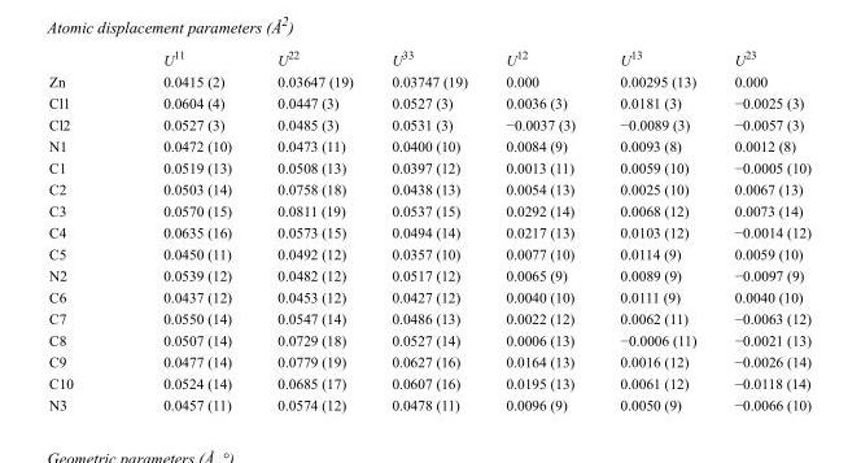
<table><thead><tr><td></td><td>U<sup>11</sup></td><td>U<sup>22</sup></td><td>U<sup>33</sup></td><td>U<sup>12</sup></td><td>U<sup>13</sup></td><td>U<sup>23</sup></td></tr></thead><tbody><tr><td>Zn</td><td>0.0415 (2)</td><td>0.03647 (19)</td><td>0.03747 (19)</td><td>0.000</td><td>0.00295 (13)</td><td>0.000</td></tr><tr><td>Cl1</td><td>0.0604 (4)</td><td>0.0447 (3)</td><td>0.0527 (3)</td><td>0.0036 (3)</td><td>0.0181 (3)</td><td>−0.0025 (3)</td></tr><tr><td>Cl2</td><td>0.0527 (3)</td><td>0.0485 (3)</td><td>0.0531 (3)</td><td>−0.0037 (3)</td><td>−0.0089 (3)</td><td>−0.0057 (3)</td></tr><tr><td>N1</td><td>0.0472 (10)</td><td>0.0473 (11)</td><td>0.0400 (10)</td><td>0.0084 (9)</td><td>0.0093 (8)</td><td>0.0012 (8)</td></tr><tr><td>C1</td><td>0.0519 (13)</td><td>0.0508 (13)</td><td>0.0397 (12)</td><td>0.0013 (11)</td><td>0.0059 (10)</td><td>−0.0005 (10)</td></tr><tr><td>C2</td><td>0.0503 (14)</td><td>0.0758 (18)</td><td>0.0438 (13)</td><td>0.0054 (13)</td><td>0.0025 (10)</td><td>0.0067 (13)</td></tr><tr><td>C3</td><td>0.0570 (15)</td><td>0.0811 (19)</td><td>0.0537 (15)</td><td>0.0292 (14)</td><td>0.0068 (12)</td><td>0.0073 (14)</td></tr><tr><td>C4</td><td>0.0635 (16)</td><td>0.0573 (15)</td><td>0.0494 (14)</td><td>0.0217 (13)</td><td>0.0103 (12)</td><td>−0.0014 (12)</td></tr><tr><td>C5</td><td>0.0450 (11)</td><td>0.0492 (12)</td><td>0.0357 (10)</td><td>0.0077 (10)</td><td>0.0114 (9)</td><td>0.0059 (10)</td></tr><tr><td>N2</td><td>0.0539 (12)</td><td>0.0482 (12)</td><td>0.0517 (12)</td><td>0.0065 (9)</td><td>0.0089 (9)</td><td>−0.0097 (9)</td></tr><tr><td>C6</td><td>0.0437 (12)</td><td>0.0453 (12)</td><td>0.0427 (12)</td><td>0.0040 (10)</td><td>0.0111 (9)</td><td>0.0040 (10)</td></tr><tr><td>C7</td><td>0.0550 (14)</td><td>0.0547 (14)</td><td>0.0486 (13)</td><td>0.0022 (12)</td><td>0.0062 (11)</td><td>−0.0063 (12)</td></tr><tr><td>C8</td><td>0.0507 (14)</td><td>0.0729 (18)</td><td>0.0527 (14)</td><td>0.0006 (13)</td><td>−0.0006 (11)</td><td>−0.0021 (13)</td></tr><tr><td>C9</td><td>0.0477 (14)</td><td>0.0779 (19)</td><td>0.0627 (16)</td><td>0.0164 (13)</td><td>0.0016 (12)</td><td>−0.0026 (14)</td></tr><tr><td>C10</td><td>0.0524 (14)</td><td>0.0685 (17)</td><td>0.0607 (16)</td><td>0.0195 (13)</td><td>0.0061 (12)</td><td>−0.0118 (14)</td></tr><tr><td>N3</td><td>0.0457 (11)</td><td>0.0574 (12)</td><td>0.0478 (11)</td><td>0.0096 (9)</td><td>0.0050 (9)</td><td>−0.0066 (10)</td></tr></tbody></table>